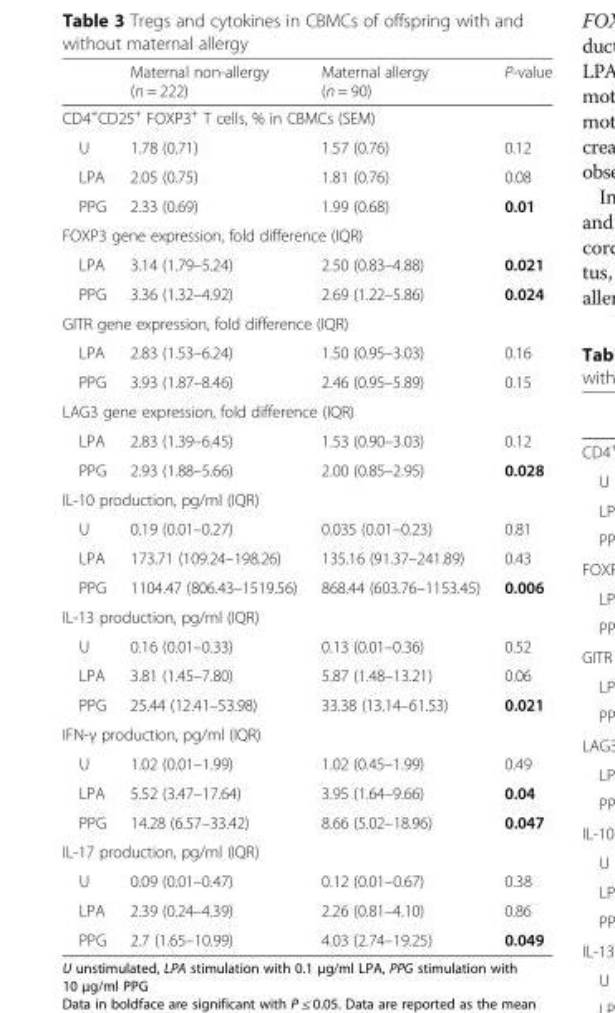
<table><thead><tr><td></td><td>Maternal non-allergy (n = 222)</td><td>Maternal allergy (n = 90)</td><td>P-value</td></tr></thead><tbody><tr><td colspan="4">CD4<sup>+</sup>CD25<sup>+</sup> FOXP3<sup>+</sup> T cells, % in CBMCs (SEM)</td></tr><tr><td>U</td><td>1.78 (0.71)</td><td>1.57 (0.76)</td><td>0.12</td></tr><tr><td>LPA</td><td>2.05 (0.75)</td><td>1.81 (0.76)</td><td>0.08</td></tr><tr><td>PPG</td><td>2.33 (0.69)</td><td>1.99 (0.68)</td><td>0.01</td></tr><tr><td colspan="4">FOXP3 gene expression, fold difference (IQR)</td></tr><tr><td>LPA</td><td>3.14 (1.79–5.24)</td><td>2.50 (0.83–4.88)</td><td>0.021</td></tr><tr><td>PPG</td><td>3.36 (1.32–4.92)</td><td>2.69 (1.22–5.86)</td><td>0.024</td></tr><tr><td colspan="4">GITR gene expression, fold difference (IQR)</td></tr><tr><td>LPA</td><td>2.83 (1.53–6.24)</td><td>1.50 (0.95–3.03)</td><td>0.16</td></tr><tr><td>PPG</td><td>3.93 (1.87–8.46)</td><td>2.46 (0.95–5.89)</td><td>0.15</td></tr><tr><td colspan="4">LAG3 gene expression, fold difference (IQR)</td></tr><tr><td>LPA</td><td>2.83 (1.39–6.45)</td><td>1.53 (0.90–3.03)</td><td>0.12</td></tr><tr><td>PPG</td><td>2.93 (1.88–5.66)</td><td>2.00 (0.85–2.95)</td><td>0.028</td></tr><tr><td colspan="4">IL-10 production, pg/ml (IQR)</td></tr><tr><td>U</td><td>0.19 (0.01–0.27)</td><td>0.035 (0.01–0.23)</td><td>0.81</td></tr><tr><td>LPA</td><td>173.71 (109.24–198.26)</td><td>135.16 (91.37–241.89)</td><td>0.43</td></tr><tr><td>PPG</td><td>1104.47 (806.43–1519.56)</td><td>868.44 (603.76–1153.45)</td><td>0.006</td></tr><tr><td colspan="4">IL-13 production, pg/ml (IQR)</td></tr><tr><td>U</td><td>0.16 (0.01–0.33)</td><td>0.13 (0.01–0.36)</td><td>0.52</td></tr><tr><td>LPA</td><td>3.81 (1.45–7.80)</td><td>5.87 (1.48–13.21)</td><td>0.06</td></tr><tr><td>PPG</td><td>25.44 (12.41–53.98)</td><td>33.38 (13.14–61.53)</td><td>0.021</td></tr><tr><td colspan="4">IFN-γ production, pg/ml (IQR)</td></tr><tr><td>U</td><td>1.02 (0.01–1.99)</td><td>1.02 (0.45–1.99)</td><td>0.49</td></tr><tr><td>LPA</td><td>5.52 (3.47–17.64)</td><td>3.95 (1.64–9.66)</td><td>0.04</td></tr><tr><td>PPG</td><td>14.28 (6.57–33.42)</td><td>8.66 (5.02–18.96)</td><td>0.047</td></tr><tr><td colspan="4">IL-17 production, pg/ml (IQR)</td></tr><tr><td>U</td><td>0.09 (0.01–0.47)</td><td>0.12 (0.01–0.67)</td><td>0.38</td></tr><tr><td>LPA</td><td>2.39 (0.24–4.39)</td><td>2.26 (0.81–4.10)</td><td>0.86</td></tr><tr><td>PPG</td><td>2.7 (1.65–10.99)</td><td>4.03 (2.74–19.25)</td><td>0.049</td></tr></tbody></table>